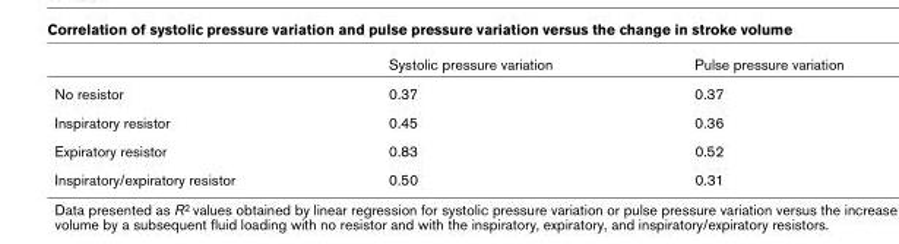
<table><thead><tr><td></td><td>Systolic pressure variation</td><td>Pulse pressure variation</td></tr></thead><tbody><tr><td>No resistor</td><td>0.37</td><td>0.37</td></tr><tr><td>Inspiratory resistor</td><td>0.45</td><td>0.36</td></tr><tr><td>Expiratory resistor</td><td>0.83</td><td>0.52</td></tr><tr><td>Inspiratory/expiratory resistor</td><td>0.50</td><td>0.31</td></tr></tbody></table>